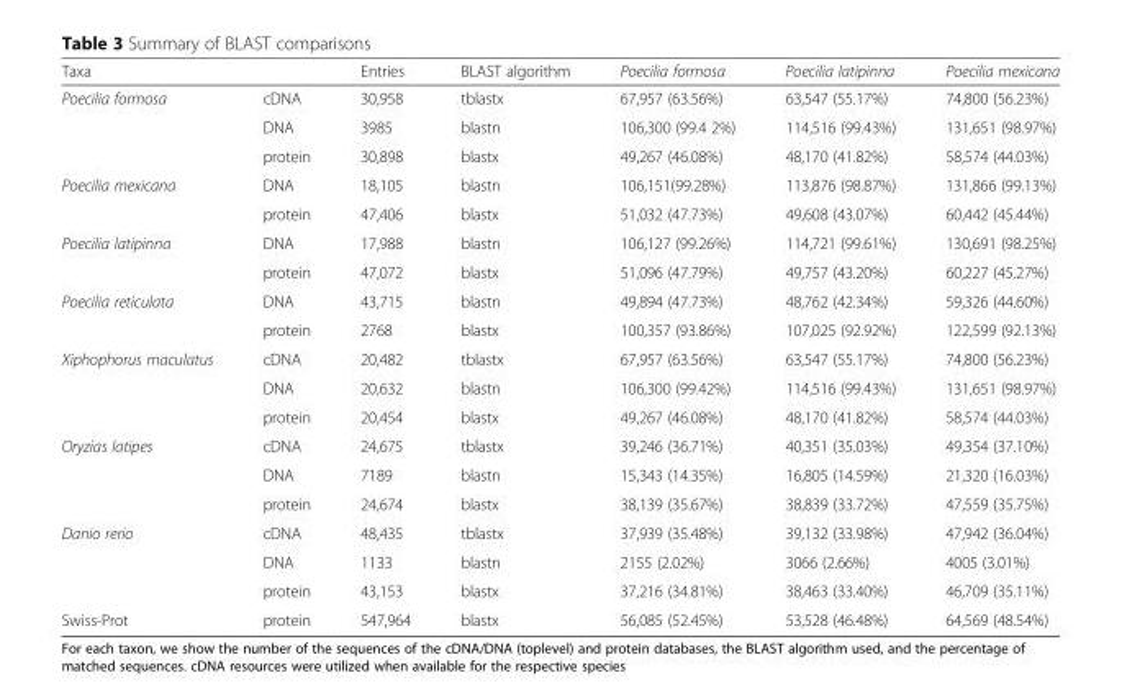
<table><thead><tr><td>Taxa</td><td></td><td>Entries</td><td>BLAST algorithm</td><td>Poecilia formosa</td><td>Poecilia latipinna</td><td>Poecilia mexicana</td></tr></thead><tbody><tr><td rowspan="3">Poecilia formosa</td><td>cDNA</td><td>30,958</td><td>tblastx</td><td>67,957 (63.56%)</td><td>63,547 (55.17%)</td><td>74,800 (56.23%)</td></tr><tr><td>DNA</td><td>3985</td><td>blastn</td><td>106,300 (99.4 2%)</td><td>114,516 (99.43%)</td><td>131,651 (98.97%)</td></tr><tr><td>protein</td><td>30,898</td><td>blastx</td><td>49,267 (46.08%)</td><td>48,170 (41.82%)</td><td>58,574 (44.03%)</td></tr><tr><td rowspan="2">Poecilia mexicana</td><td>DNA</td><td>18,105</td><td>blastn</td><td>106,151(99.28%)</td><td>113,876 (98.87%)</td><td>131,866 (99.13%)</td></tr><tr><td>protein</td><td>47,406</td><td>blastx</td><td>51,032 (47.73%)</td><td>49,608 (43.07%)</td><td>60,442 (45.44%)</td></tr><tr><td rowspan="2">Poecilia latipinna</td><td>DNA</td><td>17,988</td><td>blastn</td><td>106,127 (99.26%)</td><td>114,721 (99.61%)</td><td>130,691 (98.25%)</td></tr><tr><td>protein</td><td>47,072</td><td>blastx</td><td>51,096 (47.79%)</td><td>49,757 (43.20%)</td><td>60,227 (45.27%)</td></tr><tr><td rowspan="2">Poecilia reticulata</td><td>DNA</td><td>43,715</td><td>blastn</td><td>49,894 (47.73%)</td><td>48,762 (42.34%)</td><td>59,326 (44.60%)</td></tr><tr><td>protein</td><td>2768</td><td>blastx</td><td>100,357 (93.86%)</td><td>107,025 (92.92%)</td><td>122,599 (92.13%)</td></tr><tr><td rowspan="3">Xiphophorus maculatus</td><td>cDNA</td><td>20,482</td><td>tblastx</td><td>67,957 (63.56%)</td><td>63,547 (55.17%)</td><td>74,800 (56.23%)</td></tr><tr><td>DNA</td><td>20,632</td><td>blastn</td><td>106,300 (99.42%)</td><td>114,516 (99.43%)</td><td>131,651 (98.97%)</td></tr><tr><td>protein</td><td>20,454</td><td>blastx</td><td>49,267 (46.08%)</td><td>48,170 (41.82%)</td><td>58,574 (44.03%)</td></tr><tr><td rowspan="3">Oryzias latipes</td><td>cDNA</td><td>24,675</td><td>tblastx</td><td>39,246 (36.71%)</td><td>40,351 (35.03%)</td><td>49,354 (37.10%)</td></tr><tr><td>DNA</td><td>7189</td><td>blastn</td><td>15,343 (14.35%)</td><td>16,805 (14.59%)</td><td>21,320 (16.03%)</td></tr><tr><td>protein</td><td>24,674</td><td>blastx</td><td>38,139 (35.67%)</td><td>38,839 (33.72%)</td><td>47,559 (35.75%)</td></tr><tr><td rowspan="3">Danio rerio</td><td>cDNA</td><td>48,435</td><td>tblastx</td><td>37,939 (35.48%)</td><td>39,132 (33.98%)</td><td>47,942 (36.04%)</td></tr><tr><td>DNA</td><td>1133</td><td>blastn</td><td>2155 (2.02%)</td><td>3066 (2.66%)</td><td>4005 (3.01%)</td></tr><tr><td>protein</td><td>43,153</td><td>blastx</td><td>37,216 (34.81%)</td><td>38,463 (33.40%)</td><td>46,709 (35.11%)</td></tr><tr><td>Swiss-Prot</td><td>protein</td><td>547,964</td><td>blastx</td><td>56,085 (52.45%)</td><td>53,528 (46.48%)</td><td>64,569 (48.54%)</td></tr></tbody></table>